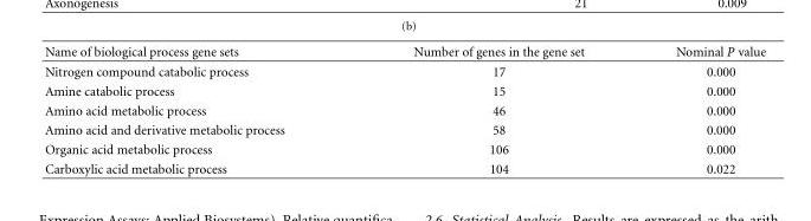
<table><thead><tr><td>Name of biological process gene sets</td><td>Number of genes in the gene set</td><td>Nominal P value</td></tr></thead><tbody><tr><td>Nitrogen compound catabolic process</td><td>17</td><td>0.000</td></tr><tr><td>Amine catabolic process</td><td>15</td><td>0.000</td></tr><tr><td>Amino acid metabolic process</td><td>46</td><td>0.000</td></tr><tr><td>Amino acid and derivative metabolic process</td><td>58</td><td>0.000</td></tr><tr><td>Organic acid metabolic process</td><td>106</td><td>0.000</td></tr><tr><td>Carboxylic acid metabolic process</td><td>104</td><td>0.022</td></tr></tbody></table>